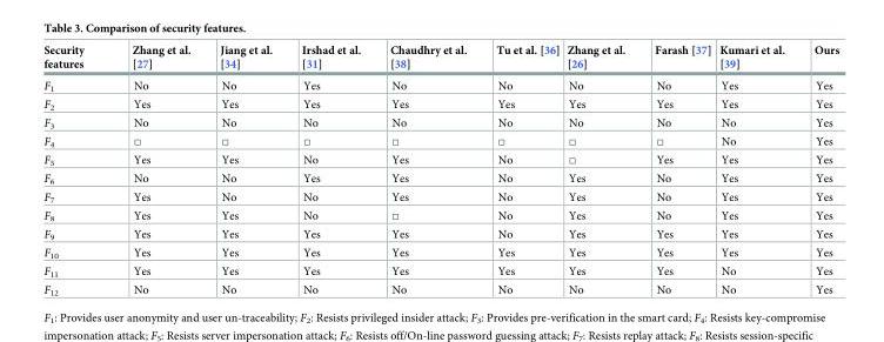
<table><thead><tr><td>Security features</td><td>Zhang et al. [27]</td><td>Jiang et al. [34]</td><td>Irshad et al. [31]</td><td>Chaudhry et al. [38]</td><td>Tu et al. [36]</td><td>Zhang et al. [26]</td><td>Farash [37]</td><td>Kumari et al. [39]</td><td>Ours</td></tr></thead><tbody><tr><td>F<sub>1</sub></td><td>No</td><td>No</td><td>Yes</td><td>No</td><td>No</td><td>No</td><td>No</td><td>Yes</td><td>Yes</td></tr><tr><td>F<sub>2</sub></td><td>Yes</td><td>Yes</td><td>Yes</td><td>Yes</td><td>Yes</td><td>Yes</td><td>Yes</td><td>Yes</td><td>Yes</td></tr><tr><td>F<sub>3</sub></td><td>No</td><td>No</td><td>No</td><td>No</td><td>No</td><td>No</td><td>No</td><td>No</td><td>Yes</td></tr><tr><td>F<sub>4</sub></td><td>□</td><td>□</td><td>□</td><td>□</td><td>□</td><td>□</td><td>□</td><td>No</td><td>Yes</td></tr><tr><td>F<sub>5</sub></td><td>Yes</td><td>Yes</td><td>No</td><td>Yes</td><td>No</td><td>□</td><td>Yes</td><td>Yes</td><td>Yes</td></tr><tr><td>F<sub>6</sub></td><td>No</td><td>No</td><td>Yes</td><td>Yes</td><td>No</td><td>Yes</td><td>No</td><td>Yes</td><td>Yes</td></tr><tr><td>F<sub>7</sub></td><td>Yes</td><td>No</td><td>No</td><td>Yes</td><td>No</td><td>Yes</td><td>No</td><td>Yes</td><td>Yes</td></tr><tr><td>F<sub>8</sub></td><td>Yes</td><td>Yes</td><td>No</td><td>□</td><td>No</td><td>Yes</td><td>No</td><td>Yes</td><td>Yes</td></tr><tr><td>F<sub>9</sub></td><td>Yes</td><td>Yes</td><td>Yes</td><td>Yes</td><td>No</td><td>Yes</td><td>Yes</td><td>Yes</td><td>Yes</td></tr><tr><td>F<sub>10</sub></td><td>Yes</td><td>Yes</td><td>Yes</td><td>Yes</td><td>Yes</td><td>Yes</td><td>Yes</td><td>Yes</td><td>Yes</td></tr><tr><td>F<sub>11</sub></td><td>Yes</td><td>Yes</td><td>Yes</td><td>Yes</td><td>Yes</td><td>Yes</td><td>Yes</td><td>No</td><td>Yes</td></tr><tr><td>F<sub>12</sub></td><td>No</td><td>No</td><td>No</td><td>No</td><td>No</td><td>No</td><td>No</td><td>No</td><td>Yes</td></tr></tbody></table>